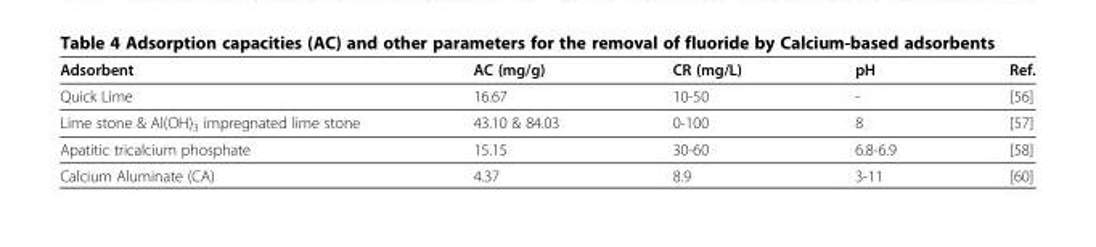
<table><thead><tr><td>Adsorbent</td><td>AC (mg/g)</td><td>CR (mg/L)</td><td>pH</td><td>Ref.</td></tr></thead><tbody><tr><td>Quick Lime</td><td>16.67</td><td>10-50</td><td>-</td><td>[56]</td></tr><tr><td>Lime stone &amp; Al(OH)<sub>3</sub> impregnated lime stone</td><td>43.10 &amp; 84.03</td><td>0-100</td><td>8</td><td>[57]</td></tr><tr><td>Apatitic tricalcium phosphate</td><td>15.15</td><td>30-60</td><td>6.8-6.9</td><td>[58]</td></tr><tr><td>Calcium Aluminate (CA)</td><td>4.37</td><td>8.9</td><td>3-11</td><td>[60]</td></tr></tbody></table>